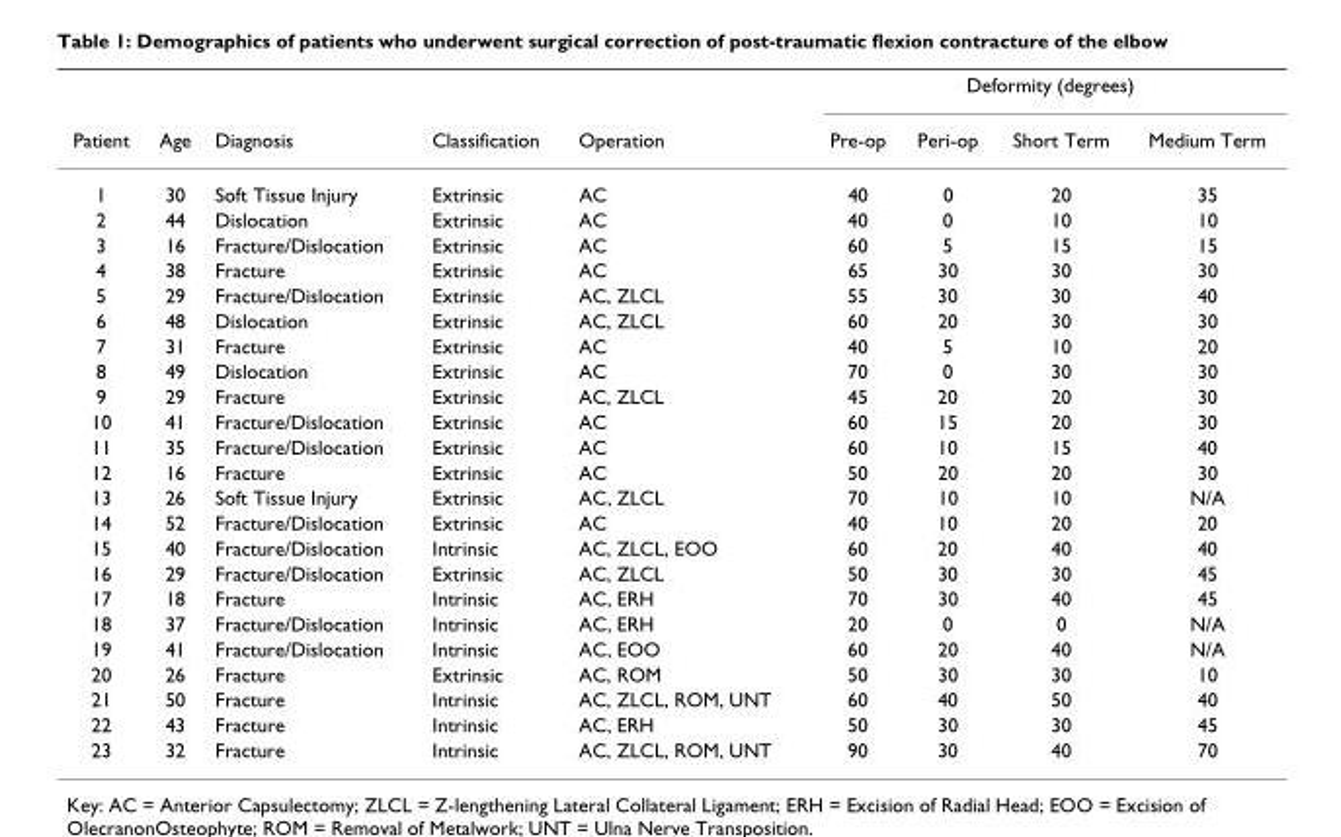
<table><thead><tr><td rowspan="2">Patient</td><td rowspan="2">Age</td><td rowspan="2">Diagnosis</td><td rowspan="2">Classification</td><td rowspan="2">Operation</td><td colspan="4">Deformity (degrees)</td></tr><tr><td>Pre-op</td><td>Peri-op</td><td>Short Term</td><td>Medium Term</td></tr></thead><tbody><tr><td>1</td><td>30</td><td>Soft Tissue Injury</td><td>Extrinsic</td><td>AC</td><td>40</td><td>0</td><td>20</td><td>35</td></tr><tr><td>2</td><td>44</td><td>Dislocation</td><td>Extrinsic</td><td>AC</td><td>40</td><td>0</td><td>10</td><td>10</td></tr><tr><td>3</td><td>16</td><td>Fracture/Dislocation</td><td>Extrinsic</td><td>AC</td><td>60</td><td>5</td><td>15</td><td>15</td></tr><tr><td>4</td><td>38</td><td>Fracture</td><td>Extrinsic</td><td>AC</td><td>65</td><td>30</td><td>30</td><td>30</td></tr><tr><td>5</td><td>29</td><td>Fracture/Dislocation</td><td>Extrinsic</td><td>AC, ZLCL</td><td>55</td><td>30</td><td>30</td><td>40</td></tr><tr><td>6</td><td>48</td><td>Dislocation</td><td>Extrinsic</td><td>AC, ZLCL</td><td>60</td><td>20</td><td>30</td><td>30</td></tr><tr><td>7</td><td>31</td><td>Fracture</td><td>Extrinsic</td><td>AC</td><td>40</td><td>5</td><td>10</td><td>20</td></tr><tr><td>8</td><td>49</td><td>Dislocation</td><td>Extrinsic</td><td>AC</td><td>70</td><td>0</td><td>30</td><td>30</td></tr><tr><td>9</td><td>29</td><td>Fracture</td><td>Extrinsic</td><td>AC, ZLCL</td><td>45</td><td>20</td><td>20</td><td>30</td></tr><tr><td>10</td><td>41</td><td>Fracture/Dislocation</td><td>Extrinsic</td><td>AC</td><td>60</td><td>15</td><td>20</td><td>30</td></tr><tr><td>11</td><td>35</td><td>Fracture/Dislocation</td><td>Extrinsic</td><td>AC</td><td>60</td><td>10</td><td>15</td><td>40</td></tr><tr><td>12</td><td>16</td><td>Fracture</td><td>Extrinsic</td><td>AC</td><td>50</td><td>20</td><td>20</td><td>30</td></tr><tr><td>13</td><td>26</td><td>Soft Tissue Injury</td><td>Extrinsic</td><td>AC, ZLCL</td><td>70</td><td>10</td><td>10</td><td>N/A</td></tr><tr><td>14</td><td>52</td><td>Fracture/Dislocation</td><td>Extrinsic</td><td>AC</td><td>40</td><td>10</td><td>20</td><td>20</td></tr><tr><td>15</td><td>40</td><td>Fracture/Dislocation</td><td>Intrinsic</td><td>AC, ZLCL, EOO</td><td>60</td><td>20</td><td>40</td><td>40</td></tr><tr><td>16</td><td>29</td><td>Fracture/Dislocation</td><td>Extrinsic</td><td>AC, ZLCL</td><td>50</td><td>30</td><td>30</td><td>45</td></tr><tr><td>17</td><td>18</td><td>Fracture</td><td>Intrinsic</td><td>AC, ERH</td><td>70</td><td>30</td><td>40</td><td>45</td></tr><tr><td>18</td><td>37</td><td>Fracture/Dislocation</td><td>Intrinsic</td><td>AC, ERH</td><td>20</td><td>0</td><td>0</td><td>N/A</td></tr><tr><td>19</td><td>41</td><td>Fracture/Dislocation</td><td>Intrinsic</td><td>AC, EOO</td><td>60</td><td>20</td><td>40</td><td>N/A</td></tr><tr><td>20</td><td>26</td><td>Fracture</td><td>Extrinsic</td><td>AC, ROM</td><td>50</td><td>30</td><td>30</td><td>10</td></tr><tr><td>21</td><td>50</td><td>Fracture</td><td>Intrinsic</td><td>AC, ZLCL, ROM, UNT</td><td>60</td><td>40</td><td>50</td><td>40</td></tr><tr><td>22</td><td>43</td><td>Fracture</td><td>Intrinsic</td><td>AC, ERH</td><td>50</td><td>30</td><td>30</td><td>45</td></tr><tr><td>23</td><td>32</td><td>Fracture</td><td>Intrinsic</td><td>AC, ZLCL, ROM, UNT</td><td>90</td><td>30</td><td>40</td><td>70</td></tr></tbody></table>